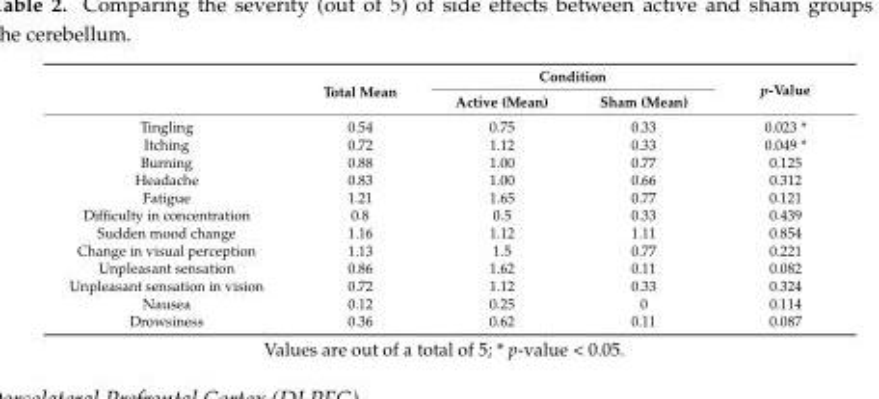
<table><thead><tr><td rowspan="2"></td><td rowspan="2">Total Mean</td><td colspan="2">Condition</td><td rowspan="2">p-Value</td></tr><tr><td>Active (Mean)</td><td>Sham (Mean)</td></tr></thead><tbody><tr><td>Tingling</td><td>0.54</td><td>0.75</td><td>0.33</td><td>0.023 *</td></tr><tr><td>Itching</td><td>0.72</td><td>1.12</td><td>0.33</td><td>0.049 *</td></tr><tr><td>Burning</td><td>0.88</td><td>1.00</td><td>0.77</td><td>0.125</td></tr><tr><td>Headache</td><td>0.83</td><td>1.00</td><td>0.66</td><td>0.312</td></tr><tr><td>Fatigue</td><td>1.21</td><td>1.65</td><td>0.77</td><td>0.121</td></tr><tr><td>Difficulty in concentration</td><td>0.8</td><td>0.5</td><td>0.33</td><td>0.439</td></tr><tr><td>Sudden mood change</td><td>1.16</td><td>1.12</td><td>1.11</td><td>0.854</td></tr><tr><td>Change in visual perception</td><td>1.13</td><td>1.5</td><td>0.77</td><td>0.221</td></tr><tr><td>Unpleasant sensation</td><td>0.86</td><td>1.62</td><td>0.11</td><td>0.082</td></tr><tr><td>Unpleasant sensation in vision</td><td>0.72</td><td>1.12</td><td>0.33</td><td>0.324</td></tr><tr><td>Nausea</td><td>0.12</td><td>0.25</td><td>0</td><td>0.114</td></tr><tr><td>Drowsiness</td><td>0.36</td><td>0.62</td><td>0.11</td><td>0.087</td></tr></tbody></table>